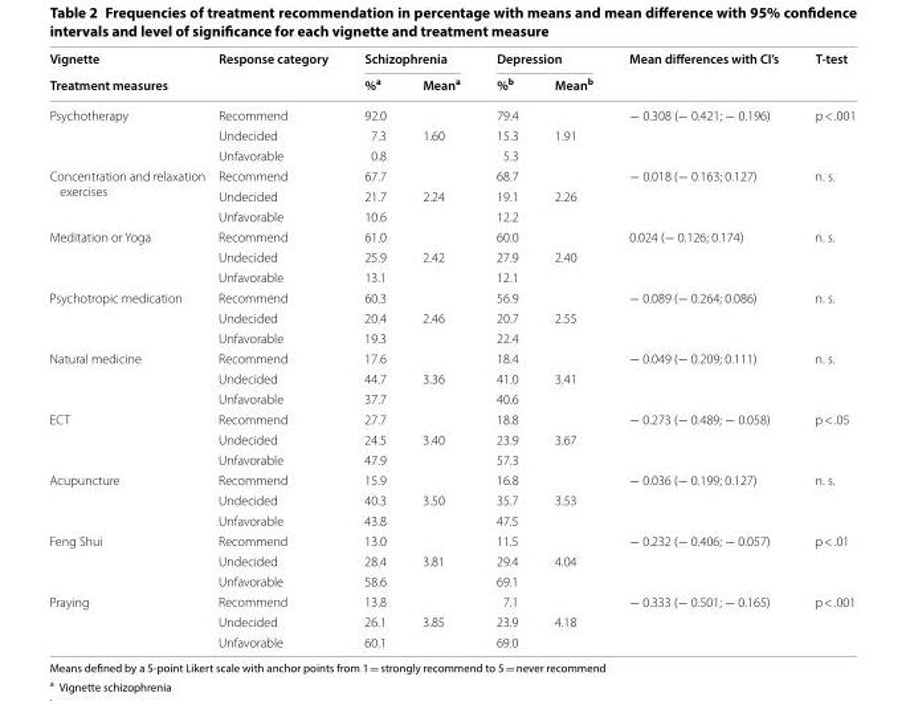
<table><thead><tr><td rowspan="2">Vignette Treatment measures</td><td rowspan="2">Response category</td><td colspan="2">Schizophrenia</td><td colspan="2">Depression</td><td rowspan="2">Mean differences with CI’s</td><td rowspan="2">T‑test</td></tr><tr><td>%<sup>a</sup></td><td>Mean<sup>a</sup></td><td>%<sup>b</sup></td><td>Mean<sup>b</sup></td></tr></thead><tbody><tr><td rowspan="3">Psychotherapy</td><td>Recommend</td><td>92.0</td><td></td><td>79.4</td><td></td><td rowspan="3">− 0.308 (− 0.421; − 0.196)</td><td rowspan="3">p &lt; .001</td></tr><tr><td>Undecided</td><td>7.3</td><td>1.60</td><td>15.3</td><td>1.91</td></tr><tr><td>Unfavorable</td><td>0.8</td><td></td><td>5.3</td><td></td></tr><tr><td rowspan="3">Concentration and relaxation exercises</td><td>Recommend</td><td>67.7</td><td></td><td>68.7</td><td></td><td rowspan="3">− 0.018 (− 0.163; 0.127)</td><td rowspan="3">n. s.</td></tr><tr><td>Undecided</td><td>21.7</td><td>2.24</td><td>19.1</td><td>2.26</td></tr><tr><td>Unfavorable</td><td>10.6</td><td></td><td>12.2</td><td></td></tr><tr><td rowspan="3">Meditation or Yoga</td><td>Recommend</td><td>61.0</td><td></td><td>60.0</td><td></td><td rowspan="3">0.024 (− 0.126; 0.174)</td><td rowspan="3">n. s.</td></tr><tr><td>Undecided</td><td>25.9</td><td>2.42</td><td>27.9</td><td>2.40</td></tr><tr><td>Unfavorable</td><td>13.1</td><td></td><td>12.1</td><td></td></tr><tr><td rowspan="3">Psychotropic medication</td><td>Recommend</td><td>60.3</td><td></td><td>56.9</td><td></td><td rowspan="3">− 0.089 (− 0.264; 0.086)</td><td rowspan="3">n. s.</td></tr><tr><td>Undecided</td><td>20.4</td><td>2.46</td><td>20.7</td><td>2.55</td></tr><tr><td>Unfavorable</td><td>19.3</td><td></td><td>22.4</td><td></td></tr><tr><td rowspan="3">Natural medicine</td><td>Recommend</td><td>17.6</td><td></td><td>18.4</td><td></td><td rowspan="3">− 0.049 (− 0.209; 0.111)</td><td rowspan="3">n. s.</td></tr><tr><td>Undecided</td><td>44.7</td><td>3.36</td><td>41.0</td><td>3.41</td></tr><tr><td>Unfavorable</td><td>37.7</td><td></td><td>40.6</td><td></td></tr><tr><td rowspan="3">ECT</td><td>Recommend</td><td>27.7</td><td></td><td>18.8</td><td></td><td rowspan="3">− 0.273 (− 0.489; − 0.058)</td><td rowspan="3">p &lt; .05</td></tr><tr><td>Undecided</td><td>24.5</td><td>3.40</td><td>23.9</td><td>3.67</td></tr><tr><td>Unfavorable</td><td>47.9</td><td></td><td>57.3</td><td></td></tr><tr><td rowspan="3">Acupuncture</td><td>Recommend</td><td>15.9</td><td></td><td>16.8</td><td></td><td rowspan="3">− 0.036 (− 0.199; 0.127)</td><td rowspan="3">n. s.</td></tr><tr><td>Undecided</td><td>40.3</td><td>3.50</td><td>35.7</td><td>3.53</td></tr><tr><td>Unfavorable</td><td>43.8</td><td></td><td>47.5</td><td></td></tr><tr><td rowspan="3">Feng Shui</td><td>Recommend</td><td>13.0</td><td></td><td>11.5</td><td></td><td rowspan="3">− 0.232 (− 0.406; − 0.057)</td><td rowspan="3">p &lt; .01</td></tr><tr><td>Undecided</td><td>28.4</td><td>3.81</td><td>29.4</td><td>4.04</td></tr><tr><td>Unfavorable</td><td>58.6</td><td></td><td>69.1</td><td></td></tr><tr><td rowspan="3">Praying</td><td>Recommend</td><td>13.8</td><td></td><td>7.1</td><td></td><td rowspan="3">− 0.333 (− 0.501; − 0.165)</td><td rowspan="3">p &lt; .001</td></tr><tr><td>Undecided</td><td>26.1</td><td>3.85</td><td>23.9</td><td>4.18</td></tr><tr><td>Unfavorable</td><td>60.1</td><td></td><td>69.0</td><td></td></tr></tbody></table>